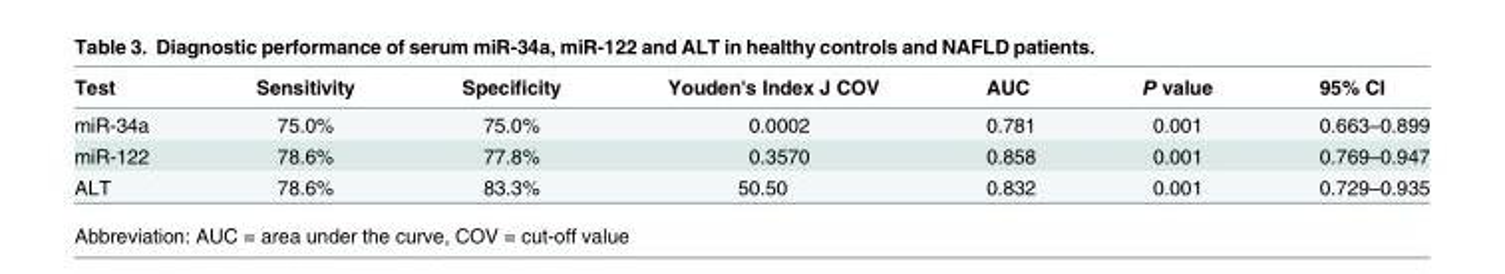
<table><thead><tr><td>Test</td><td>Sensitivity</td><td>Specificity</td><td>Youden&#x27;s Index J COV</td><td>AUC</td><td>P value</td><td>95% CI</td></tr></thead><tbody><tr><td>miR-34a</td><td>75.0%</td><td>75.0%</td><td>0.0002</td><td>0.781</td><td>0.001</td><td>0.663–0.899</td></tr><tr><td>miR-122</td><td>78.6%</td><td>77.8%</td><td>0.3570</td><td>0.858</td><td>0.001</td><td>0.769–0.947</td></tr><tr><td>ALT</td><td>78.6%</td><td>83.3%</td><td>50.50</td><td>0.832</td><td>0.001</td><td>0.729–0.935</td></tr></tbody></table>